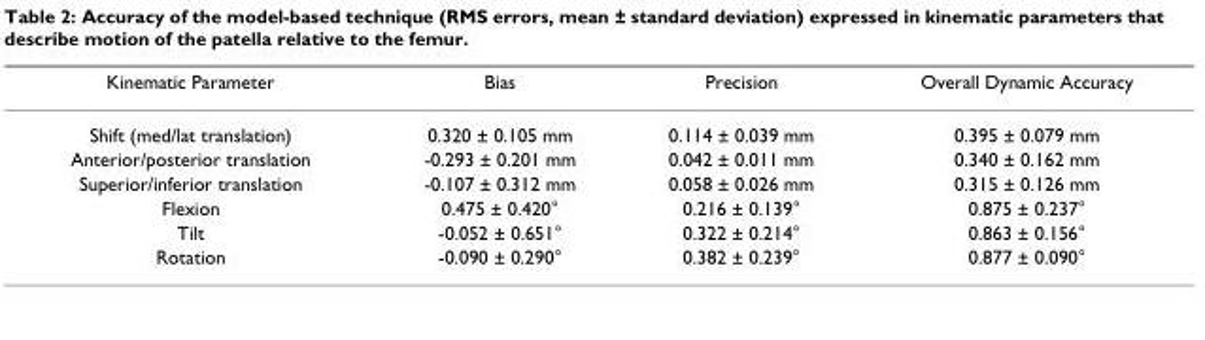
<table><thead><tr><td>Kinematic Parameter</td><td>Bias</td><td>Precision</td><td>Overall Dynamic Accuracy</td></tr></thead><tbody><tr><td>Shift (med/lat translation)</td><td>0.320 ± 0.105 mm</td><td>0.114 ± 0.039 mm</td><td>0.395 ± 0.079 mm</td></tr><tr><td>Anterior/posterior translation</td><td>-0.293 ± 0.201 mm</td><td>0.042 ± 0.011 mm</td><td>0.340 ± 0.162 mm</td></tr><tr><td>Superior/inferior translation</td><td>-0.107 ± 0.312 mm</td><td>0.058 ± 0.026 mm</td><td>0.315 ± 0.126 mm</td></tr><tr><td>Flexion</td><td>0.475 ± 0.420°</td><td>0.216 ± 0.139°</td><td>0.875 ± 0.237°</td></tr><tr><td>Tilt</td><td>-0.052 ± 0.651°</td><td>0.322 ± 0.214°</td><td>0.863 ± 0.156°</td></tr><tr><td>Rotation</td><td>-0.090 ± 0.290°</td><td>0.382 ± 0.239°</td><td>0.877 ± 0.090°</td></tr></tbody></table>